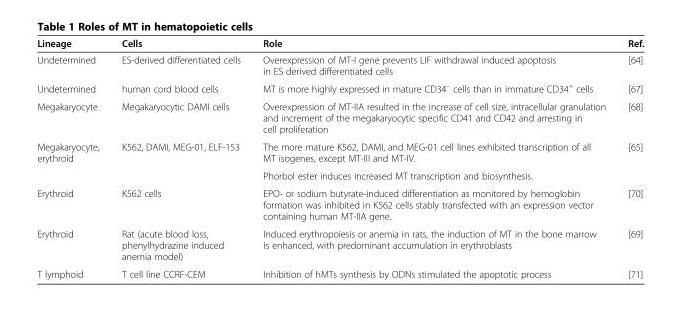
<table><thead><tr><td>Lineage</td><td>Cells</td><td>Role</td><td>Ref.</td></tr></thead><tbody><tr><td>Undetermined</td><td>ES-derived differentiated cells</td><td>Overexpression of MT-I gene prevents LIF withdrawal induced apoptosis in ES derived differentiated cells</td><td>[64]</td></tr><tr><td>Undetermined</td><td>human cord blood cells</td><td>MT is more highly expressed in mature CD34<sup>–</sup> cells than in immature CD34<sup>+</sup> cells</td><td>[67]</td></tr><tr><td>Megakaryocyte</td><td>Megakaryocytic DAMI cells</td><td>Overexpression of MT-IIA resulted in the increase of cell size, intracellular granulation and increment of the megakaryocytic specific CD41 and CD42 and arresting in cell proliferation</td><td>[68]</td></tr><tr><td rowspan="2">Megakaryocyte, erythroid</td><td rowspan="2">K562, DAMI, MEG-01, ELF-153</td><td>The more mature K562, DAMI, and MEG-01 cell lines exhibited transcription of all MT isogenes, except MT-III and MT-IV.</td><td>[65]</td></tr><tr><td>Phorbol ester induces increased MT transcription and biosynthesis.</td><td></td></tr><tr><td>Erythroid</td><td>K562 cells</td><td>EPO- or sodium butyrate-induced differentiation as monitored by hemoglobin formation was inhibited in K562 cells stably transfected with an expression vector containing human MT-IIA gene.</td><td>[70]</td></tr><tr><td>Erythroid</td><td>Rat (acute blood loss, phenylhydrazine induced anemia model)</td><td>Induced erythropoiesis or anemia in rats, the induction of MT in the bone marrow is enhanced, with predominant accumulation in erythroblasts</td><td>[69]</td></tr><tr><td>T lymphoid</td><td>T cell line CCRF-CEM</td><td>Inhibition of hMTs synthesis by ODNs stimulated the apoptotic process</td><td>[71]</td></tr></tbody></table>